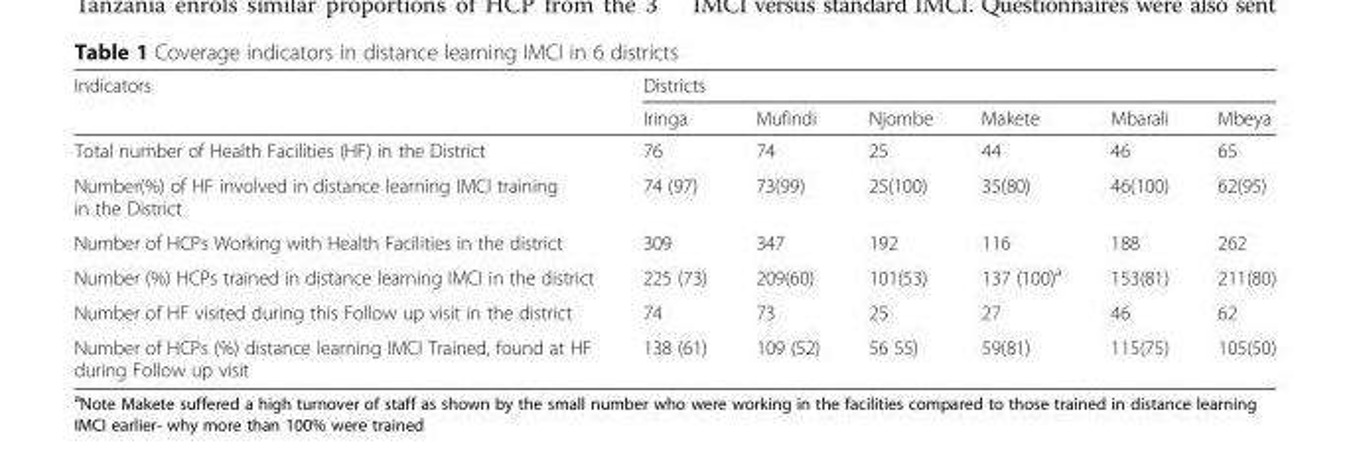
<table><thead><tr><td rowspan="2">Indicators</td><td colspan="6">Districts</td></tr><tr><td>Iringa</td><td>Mufindi</td><td>Njombe</td><td>Makete</td><td>Mbarali</td><td>Mbeya</td></tr></thead><tbody><tr><td>Total number of Health Facilities (HF) in the District</td><td>76</td><td>74</td><td>25</td><td>44</td><td>46</td><td>65</td></tr><tr><td>Number(%) of HF involved in distance learning IMCI training in the District</td><td>74 (97)</td><td>73(99)</td><td>25(100)</td><td>35(80)</td><td>46(100)</td><td>62(95)</td></tr><tr><td>Number of HCPs Working with Health Facilities in the district</td><td>309</td><td>347</td><td>192</td><td>116</td><td>188</td><td>262</td></tr><tr><td>Number (%) HCPs trained in distance learning IMCI in the district</td><td>225 (73)</td><td>209(60)</td><td>101(53)</td><td>137 (100)<sup>a</sup></td><td>153(81)</td><td>211(80)</td></tr><tr><td>Number of HF visited during this Follow up visit in the district</td><td>74</td><td>73</td><td>25</td><td>27</td><td>46</td><td>62</td></tr><tr><td>Number of HCPs (%) distance learning IMCI Trained, found at HF during Follow up visit</td><td>138 (61)</td><td>109 (52)</td><td>56 55)</td><td>59(81)</td><td>115(75)</td><td>105(50)</td></tr></tbody></table>